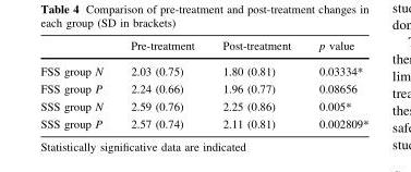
<table><thead><tr><td></td><td>Pre-treatment</td><td>Post-treatment</td><td>p value</td></tr></thead><tbody><tr><td>FSS group N</td><td>2.03 (0.75)</td><td>1.80 (0.81)</td><td>0.03334*</td></tr><tr><td>FSS group P</td><td>2.24 (0.66)</td><td>1.96 (0.77)</td><td>0.08656</td></tr><tr><td>SSS group N</td><td>2.59 (0.76)</td><td>2.25 (0.86)</td><td>0.005*</td></tr><tr><td>SSS group P</td><td>2.57 (0.74)</td><td>2.11 (0.81)</td><td>0.002809*</td></tr></tbody></table>